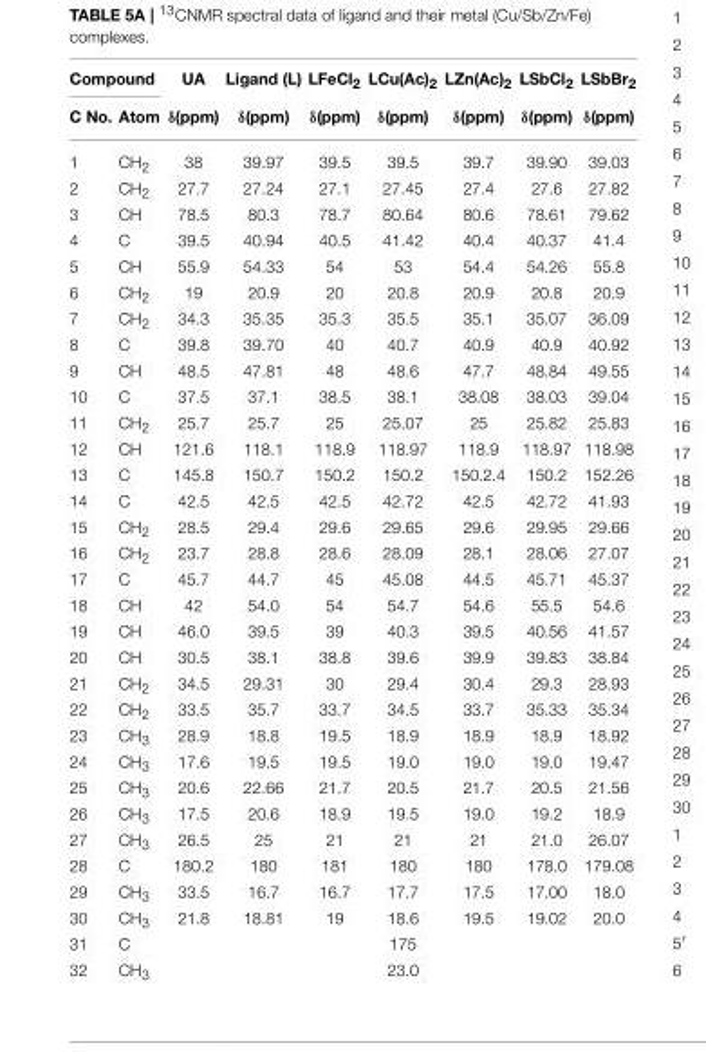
<table><thead><tr><td colspan="2">Compound</td><td rowspan="2">UA δ(ppm)</td><td rowspan="2">Ligand (L) δ(ppm)</td><td rowspan="2">LFeCl<sub>2</sub> δ(ppm)</td><td rowspan="2">LCu(Ac)<sub>2</sub> δ(ppm)</td><td rowspan="2">LZn(Ac)<sub>2</sub> δ(ppm)</td><td rowspan="2">LSbCl<sub>2</sub> δ(ppm)</td><td rowspan="2">LSbBr<sub>2</sub> δ(ppm)</td></tr><tr><td>C No.</td><td>Atom</td></tr></thead><tbody><tr><td>1</td><td>CH<sub>2</sub></td><td>38</td><td>39.97</td><td>39.5</td><td>39.5</td><td>39.7</td><td>39.90</td><td>39.03</td></tr><tr><td>2</td><td>CH<sub>2</sub></td><td>27.7</td><td>27.24</td><td>27.1</td><td>27.45</td><td>27.4</td><td>27.6</td><td>27.82</td></tr><tr><td>3</td><td>CH</td><td>78.5</td><td>80.3</td><td>78.7</td><td>80.64</td><td>80.6</td><td>78.61</td><td>79.62</td></tr><tr><td>4</td><td>C</td><td>39.5</td><td>40.94</td><td>40.5</td><td>41.42</td><td>40.4</td><td>40.37</td><td>41.4</td></tr><tr><td>5</td><td>CH</td><td>55.9</td><td>54.33</td><td>54</td><td>53</td><td>54.4</td><td>54.26</td><td>55.8</td></tr><tr><td>6</td><td>CH<sub>2</sub></td><td>19</td><td>20.9</td><td>20</td><td>20.8</td><td>20.9</td><td>20.8</td><td>20.9</td></tr><tr><td>7</td><td>CH<sub>2</sub></td><td>34.3</td><td>35.35</td><td>35.3</td><td>35.5</td><td>35.1</td><td>35.07</td><td>36.09</td></tr><tr><td>8</td><td>C</td><td>39.8</td><td>39.70</td><td>40</td><td>40.7</td><td>40.9</td><td>40.9</td><td>40.92</td></tr><tr><td>9</td><td>CH</td><td>48.5</td><td>47.81</td><td>48</td><td>48.6</td><td>47.7</td><td>48.84</td><td>49.55</td></tr><tr><td>10</td><td>C</td><td>37.5</td><td>37.1</td><td>38.5</td><td>38.1</td><td>38.08</td><td>38.03</td><td>39.04</td></tr><tr><td>11</td><td>CH<sub>2</sub></td><td>25.7</td><td>25.7</td><td>25</td><td>25.07</td><td>25</td><td>25.82</td><td>25.83</td></tr><tr><td>12</td><td>CH</td><td>121.6</td><td>118.1</td><td>118.9</td><td>118.97</td><td>118.9</td><td>118.97</td><td>118.98</td></tr><tr><td>13</td><td>C</td><td>145.8</td><td>150.7</td><td>150.2</td><td>150.2</td><td>150.2.4</td><td>150.2</td><td>152.26</td></tr><tr><td>14</td><td>C</td><td>42.5</td><td>42.5</td><td>42.5</td><td>42.72</td><td>42.5</td><td>42.72</td><td>41.93</td></tr><tr><td>15</td><td>CH<sub>2</sub></td><td>28.5</td><td>29.4</td><td>29.6</td><td>29.65</td><td>29.6</td><td>29.95</td><td>29.66</td></tr><tr><td>16</td><td>CH<sub>2</sub></td><td>23.7</td><td>28.8</td><td>28.6</td><td>28.09</td><td>28.1</td><td>28.06</td><td>27.07</td></tr><tr><td>17</td><td>C</td><td>45.7</td><td>44.7</td><td>45</td><td>45.08</td><td>44.5</td><td>45.71</td><td>45.37</td></tr><tr><td>18</td><td>CH</td><td>42</td><td>54.0</td><td>54</td><td>54.7</td><td>54.6</td><td>55.5</td><td>54.6</td></tr><tr><td>19</td><td>CH</td><td>46.0</td><td>39.5</td><td>39</td><td>40.3</td><td>39.5</td><td>40.56</td><td>41.57</td></tr><tr><td>20</td><td>CH</td><td>30.5</td><td>38.1</td><td>38.8</td><td>39.6</td><td>39.9</td><td>39.83</td><td>38.84</td></tr><tr><td>21</td><td>CH<sub>2</sub></td><td>34.5</td><td>29.31</td><td>30</td><td>29.4</td><td>30.4</td><td>29.3</td><td>28.93</td></tr><tr><td>22</td><td>CH<sub>2</sub></td><td>33.5</td><td>35.7</td><td>33.7</td><td>34.5</td><td>33.7</td><td>35.33</td><td>35.34</td></tr><tr><td>23</td><td>CH<sub>3</sub></td><td>28.9</td><td>18.8</td><td>19.5</td><td>18.9</td><td>18.9</td><td>18.9</td><td>18.92</td></tr><tr><td>24</td><td>CH<sub>3</sub></td><td>17.6</td><td>19.5</td><td>19.5</td><td>19.0</td><td>19.0</td><td>19.0</td><td>19.47</td></tr><tr><td>25</td><td>CH<sub>3</sub></td><td>20.6</td><td>22.66</td><td>21.7</td><td>20.5</td><td>21.7</td><td>20.5</td><td>21.56</td></tr><tr><td>26</td><td>CH<sub>3</sub></td><td>17.5</td><td>20.6</td><td>18.9</td><td>19.5</td><td>19.0</td><td>19.2</td><td>18.9</td></tr><tr><td>27</td><td>CH<sub>3</sub></td><td>26.5</td><td>25</td><td>21</td><td>21</td><td>21</td><td>21.0</td><td>26.07</td></tr><tr><td>28</td><td>C</td><td>180.2</td><td>180</td><td>181</td><td>180</td><td>180</td><td>178.0</td><td>179.08</td></tr><tr><td>29</td><td>CH<sub>3</sub></td><td>33.5</td><td>16.7</td><td>16.7</td><td>17.7</td><td>17.5</td><td>17.00</td><td>18.0</td></tr><tr><td>30</td><td>CH<sub>3</sub></td><td>21.8</td><td>18.81</td><td>19</td><td>18.6</td><td>19.5</td><td>19.02</td><td>20.0</td></tr><tr><td>31</td><td>C</td><td></td><td></td><td></td><td>175</td><td></td><td></td><td></td></tr><tr><td>32</td><td>CH<sub>3</sub></td><td></td><td></td><td></td><td>23.0</td><td></td><td></td><td></td></tr></tbody></table>